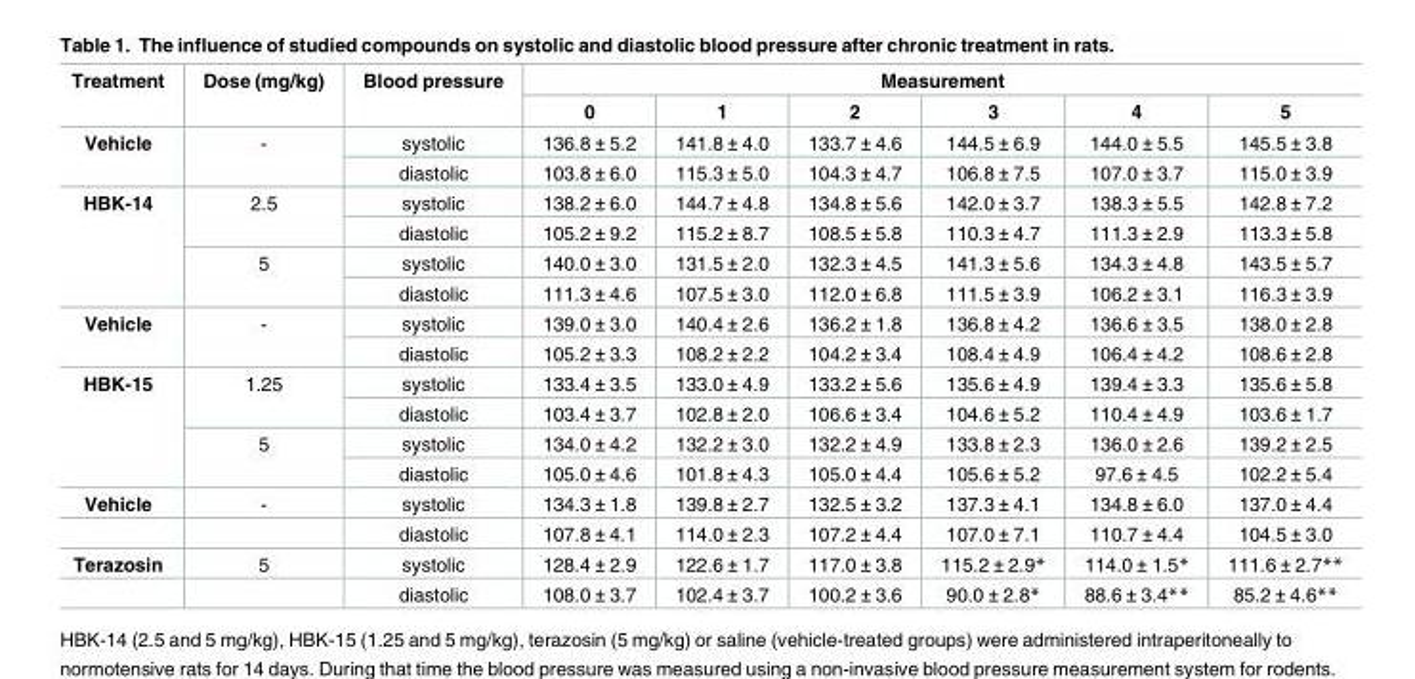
<table><thead><tr><td rowspan="2">Treatment</td><td rowspan="2">Dose (mg/kg)</td><td rowspan="2">Blood pressure</td><td colspan="6">Measurement</td></tr><tr><td>0</td><td>1</td><td>2</td><td>3</td><td>4</td><td>5</td></tr></thead><tbody><tr><td rowspan="2">Vehicle</td><td rowspan="2">-</td><td>systolic</td><td>136.8 ± 5.2</td><td>141.8 ± 4.0</td><td>133.7 ± 4.6</td><td>144.5 ± 6.9</td><td>144.0 ± 5.5</td><td>145.5 ± 3.8</td></tr><tr><td>diastolic</td><td>103.8 ± 6.0</td><td>115.3 ± 5.0</td><td>104.3 ± 4.7</td><td>106.8 ± 7.5</td><td>107.0 ± 3.7</td><td>115.0 ± 3.9</td></tr><tr><td rowspan="4">HBK-14</td><td rowspan="2">2.5</td><td>systolic</td><td>138.2 ± 6.0</td><td>144.7 ± 4.8</td><td>134.8 ± 5.6</td><td>142.0 ± 3.7</td><td>138.3 ± 5.5</td><td>142.8 ± 7.2</td></tr><tr><td>diastolic</td><td>105.2 ± 9.2</td><td>115.2 ± 8.7</td><td>108.5 ± 5.8</td><td>110.3 ± 4.7</td><td>111.3 ± 2.9</td><td>113.3 ± 5.8</td></tr><tr><td rowspan="2">5</td><td>systolic</td><td>140.0 ± 3.0</td><td>131.5 ± 2.0</td><td>132.3 ± 4.5</td><td>141.3 ± 5.6</td><td>134.3 ± 4.8</td><td>143.5 ± 5.7</td></tr><tr><td>diastolic</td><td>111.3 ± 4.6</td><td>107.5 ± 3.0</td><td>112.0 ± 6.8</td><td>111.5 ± 3.9</td><td>106.2 ± 3.1</td><td>116.3 ± 3.9</td></tr><tr><td rowspan="2">Vehicle</td><td rowspan="2">-</td><td>systolic</td><td>139.0 ± 3.0</td><td>140.4 ± 2.6</td><td>136.2 ± 1.8</td><td>136.8 ± 4.2</td><td>136.6 ± 3.5</td><td>138.0 ± 2.8</td></tr><tr><td>diastolic</td><td>105.2 ± 3.3</td><td>108.2 ± 2.2</td><td>104.2 ± 3.4</td><td>108.4 ± 4.9</td><td>106.4 ± 4.2</td><td>108.6 ± 2.8</td></tr><tr><td rowspan="4">HBK-15</td><td rowspan="2">1.25</td><td>systolic</td><td>133.4 ± 3.5</td><td>133.0 ± 4.9</td><td>133.2 ± 5.6</td><td>135.6 ± 4.9</td><td>139.4 ± 3.3</td><td>135.6 ± 5.8</td></tr><tr><td>diastolic</td><td>103.4 ± 3.7</td><td>102.8 ± 2.0</td><td>106.6 ± 3.4</td><td>104.6 ± 5.2</td><td>110.4 ± 4.9</td><td>103.6 ± 1.7</td></tr><tr><td rowspan="2">5</td><td>systolic</td><td>134.0 ± 4.2</td><td>132.2 ± 3.0</td><td>132.2 ± 4.9</td><td>133.8 ± 2.3</td><td>136.0 ± 2.6</td><td>139.2 ± 2.5</td></tr><tr><td>diastolic</td><td>105.0 ± 4.6</td><td>101.8 ± 4.3</td><td>105.0 ± 4.4</td><td>105.6 ± 5.2</td><td>97.6 ± 4.5</td><td>102.2 ± 5.4</td></tr><tr><td rowspan="2">Vehicle</td><td>-</td><td>systolic</td><td>134.3 ± 1.8</td><td>139.8 ± 2.7</td><td>132.5 ± 3.2</td><td>137.3 ± 4.1</td><td>134.8 ± 6.0</td><td>137.0 ± 4.4</td></tr><tr><td></td><td>diastolic</td><td>107.8 ± 4.1</td><td>114.0 ± 2.3</td><td>107.2 ± 4.4</td><td>107.0 ± 7.1</td><td>110.7 ± 4.4</td><td>104.5 ± 3.0</td></tr><tr><td rowspan="2">Terazosin</td><td>5</td><td>systolic</td><td>128.4 ± 2.9</td><td>122.6 ± 1.7</td><td>117.0 ± 3.8</td><td>115.2 ± 2.9*</td><td>114.0 ± 1.5*</td><td>111.6 ± 2.7**</td></tr><tr><td></td><td>diastolic</td><td>108.0 ± 3.7</td><td>102.4 ± 3.7</td><td>100.2 ± 3.6</td><td>90.0 ± 2.8*</td><td>88.6 ± 3.4**</td><td>85.2 ± 4.6**</td></tr></tbody></table>